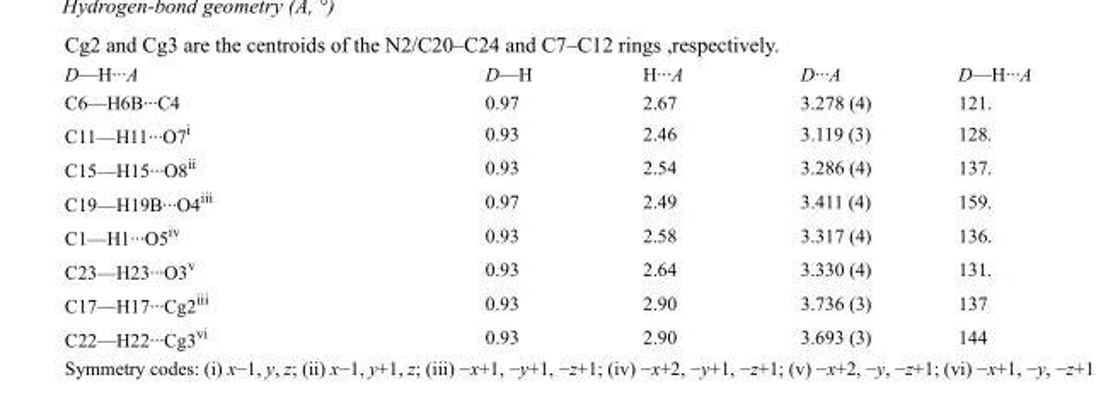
<table><tbody><tr><td>D—H···A</td><td>D—H</td><td>H···A</td><td>D···A</td><td>D—H···A</td></tr><tr><td>C6—H6B···C4</td><td>0.97</td><td>2.67</td><td>3.278 (4)</td><td>121.</td></tr><tr><td>C11—H11···O7<sup>i</sup></td><td>0.93</td><td>2.46</td><td>3.119 (3)</td><td>128.</td></tr><tr><td>C15—H15···O8<sup>ii</sup></td><td>0.93</td><td>2.54</td><td>3.286 (4)</td><td>137.</td></tr><tr><td>C19—H19B···O4<sup>iii</sup></td><td>0.97</td><td>2.49</td><td>3.411 (4)</td><td>159.</td></tr><tr><td>C1—H1···O5<sup>iv</sup></td><td>0.93</td><td>2.58</td><td>3.317 (4)</td><td>136.</td></tr><tr><td>C23—H23···O3<sup>v</sup></td><td>0.93</td><td>2.64</td><td>3.330 (4)</td><td>131.</td></tr><tr><td>C17—H17···Cg2<sup>iii</sup></td><td>0.93</td><td>2.90</td><td>3.736 (3)</td><td>137</td></tr><tr><td>C22—H22···Cg3<sup>vi</sup></td><td>0.93</td><td>2.90</td><td>3.693 (3)</td><td>144</td></tr></tbody></table>